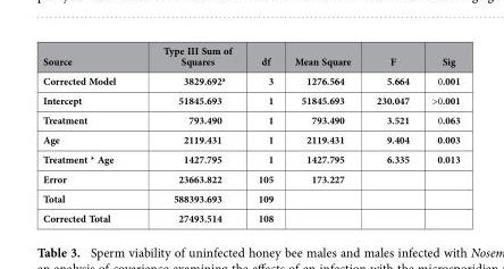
<table><thead><tr><td>Source</td><td>Type III Sum of Squares</td><td>df</td><td>Mean Square</td><td>F</td><td>Sig</td></tr></thead><tbody><tr><td>Corrected Model</td><td>3829.692<sup>a</sup></td><td>3</td><td>1276.564</td><td>5.664</td><td>0.001</td></tr><tr><td>Intercept</td><td>51845.693</td><td>1</td><td>51845.693</td><td>230.047</td><td>&gt;0.001</td></tr><tr><td>Treatment</td><td>793.490</td><td>1</td><td>793.490</td><td>3.521</td><td>0.063</td></tr><tr><td>Age</td><td>2119.431</td><td>1</td><td>2119.431</td><td>9.404</td><td>0.003</td></tr><tr><td>Treatment * Age</td><td>1427.795</td><td>1</td><td>1427.795</td><td>6.335</td><td>0.013</td></tr><tr><td>Error</td><td>23663.822</td><td>105</td><td>173.227</td><td></td><td></td></tr><tr><td>Total</td><td>588393.693</td><td>109</td><td></td><td></td><td></td></tr><tr><td>Corrected Total</td><td>27493.514</td><td>108</td><td></td><td></td><td></td></tr></tbody></table>